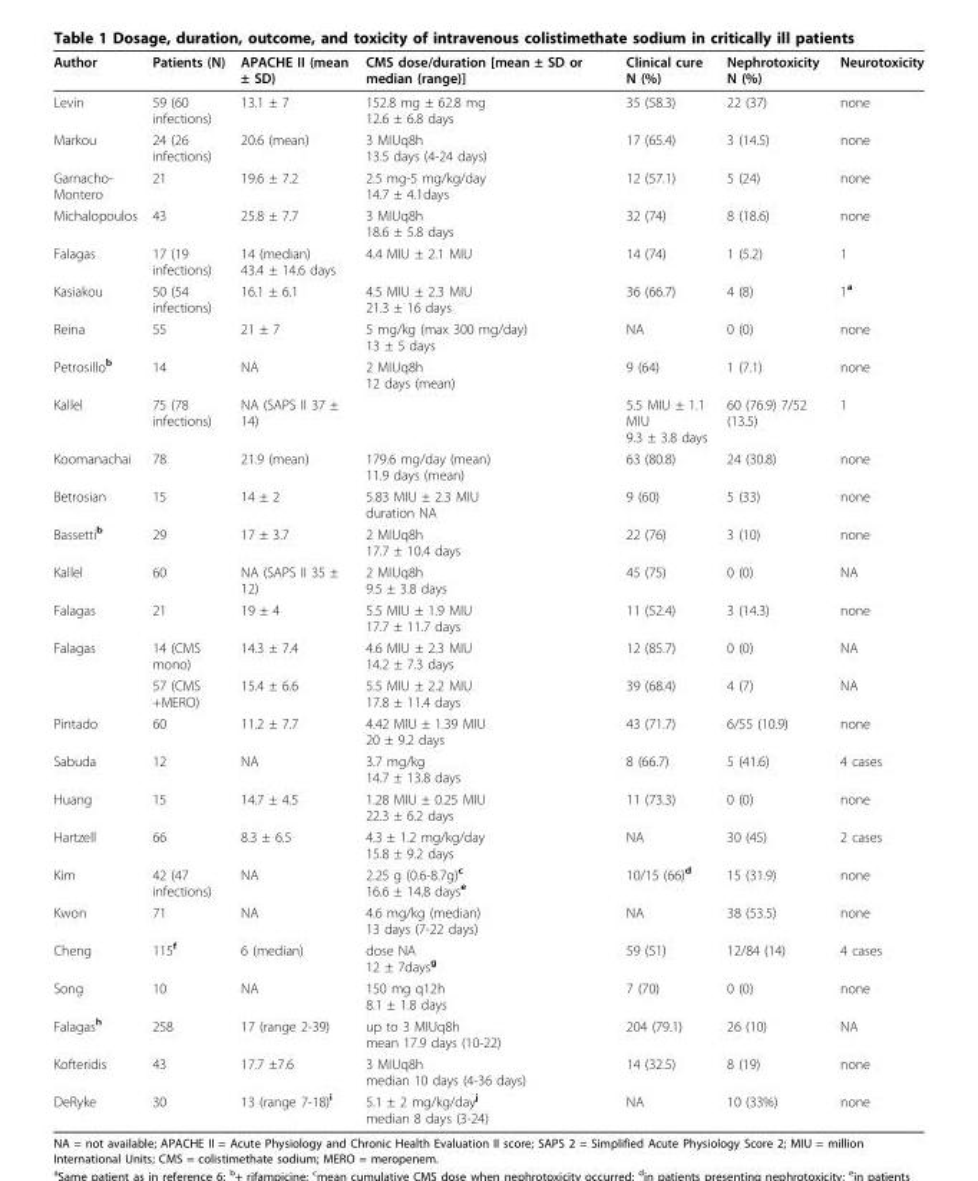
<table><thead><tr><td>Author</td><td>Patients (N)</td><td>APACHE II (mean ± SD)</td><td>CMS dose/duration [mean ± SD or median (range)]</td><td>Clinical cure N (%)</td><td>Nephrotoxicity N (%)</td><td>Neurotoxicity</td></tr></thead><tbody><tr><td>Levin</td><td>59 (60 infections)</td><td>13.1 ± 7</td><td>152.8 mg ± 62.8 mg 12.6 ± 6.8 days</td><td>35 (58.3)</td><td>22 (37)</td><td>none</td></tr><tr><td>Markou</td><td>24 (26 infections)</td><td>20.6 (mean)</td><td>3 MIUq8h 13.5 days (4-24 days)</td><td>17 (65.4)</td><td>3 (14.5)</td><td>none</td></tr><tr><td>Garnacho- Montero</td><td>21</td><td>19.6 ± 7.2</td><td>2.5 mg-5 mg/kg/day 14.7 ± 4.1days</td><td>12 (57.1)</td><td>5 (24)</td><td>none</td></tr><tr><td>Michalopoulos</td><td>43</td><td>25.8 ± 7.7</td><td>3 MIUq8h 18.6 ± 5.8 days</td><td>32 (74)</td><td>8 (18.6)</td><td>none</td></tr><tr><td>Falagas</td><td>17 (19 infections)</td><td>14 (median) 43.4 ± 14.6 days</td><td>4.4 MIU ± 2.1 MIU</td><td>14 (74)</td><td>1 (5.2)</td><td>1</td></tr><tr><td>Kasiakou</td><td>50 (54 infections)</td><td>16.1 ± 6.1</td><td>4.5 MIU ± 2.3 MIU 21.3 ± 16 days</td><td>36 (66.7)</td><td>4 (8)</td><td>1<sup>a</sup></td></tr><tr><td>Reina</td><td>55</td><td>21 ± 7</td><td>5 mg/kg (max 300 mg/day) 13 ± 5 days</td><td>NA</td><td>0 (0)</td><td>none</td></tr><tr><td>Petrosillo<sup>b</sup></td><td>14</td><td>NA</td><td>2 MIUq8h 12 days (mean)</td><td>9 (64)</td><td>1 (7.1)</td><td>none</td></tr><tr><td>Kallel</td><td>75 (78 infections)</td><td>NA (SAPS II 37 ± 14)</td><td></td><td>5.5 MIU ± 1.1 MIU 9.3 ± 3.8 days</td><td>60 (76.9) 7/52 (13.5)</td><td>1</td></tr><tr><td>Koomanachai</td><td>78</td><td>21.9 (mean)</td><td>179.6 mg/day (mean) 11.9 days (mean)</td><td>63 (80.8)</td><td>24 (30.8)</td><td>none</td></tr><tr><td>Betrosian</td><td>15</td><td>14 ± 2</td><td>5.83 MIU ± 2.3 MIU duration NA</td><td>9 (60)</td><td>5 (33)</td><td>none</td></tr><tr><td>Bassetti<sup>b</sup></td><td>29</td><td>17 ± 3.7</td><td>2 MIUq8h 17.7 ± 10.4 days</td><td>22 (76)</td><td>3 (10)</td><td>none</td></tr><tr><td>Kallel</td><td>60</td><td>NA (SAPS II 35 ± 12)</td><td>2 MIUq8h 9.5 ± 3.8 days</td><td>45 (75)</td><td>0 (0)</td><td>NA</td></tr><tr><td>Falagas</td><td>21</td><td>19 ± 4</td><td>5.5 MIU ± 1.9 MIU 17.7 ± 11.7 days</td><td>11 (52.4)</td><td>3 (14.3)</td><td>none</td></tr><tr><td rowspan="2">Falagas</td><td>14 (CMS mono)</td><td>14.3 ± 7.4</td><td>4.6 MIU ± 2.3 MIU 14.2 ± 7.3 days</td><td>12 (85.7)</td><td>0 (0)</td><td>NA</td></tr><tr><td>57 (CMS +MERO)</td><td>15.4 ± 6.6</td><td>5.5 MIU ± 2.2 MIU 17.8 ± 11.4 days</td><td>39 (68.4)</td><td>4 (7)</td><td>NA</td></tr><tr><td>Pintado</td><td>60</td><td>11.2 ± 7.7</td><td>4.42 MIU ± 1.39 MIU 20 ± 9.2 days</td><td>43 (71.7)</td><td>6/55 (10.9)</td><td>none</td></tr><tr><td>Sabuda</td><td>12</td><td>NA</td><td>3.7 mg/kg 14.7 ± 13.8 days</td><td>8 (66.7)</td><td>5 (41.6)</td><td>4 cases</td></tr><tr><td>Huang</td><td>15</td><td>14.7 ± 4.5</td><td>1.28 MIU ± 0.25 MIU 22.3 ± 6.2 days</td><td>11 (73.3)</td><td>0 (0)</td><td>none</td></tr><tr><td>Hartzell</td><td>66</td><td>8.3 ± 6.5</td><td>4.3 ± 1.2 mg/kg/day 15.8 ± 9.2 days</td><td>NA</td><td>30 (45)</td><td>2 cases</td></tr><tr><td>Kim</td><td>42 (47 infections)</td><td>NA</td><td>2.25 g (0.6-8.7g)<sup>c</sup> 16.6 ± 14.8 days<sup>e</sup></td><td>10/15 (66)<sup>d</sup></td><td>15 (31.9)</td><td>none</td></tr><tr><td>Kwon</td><td>71</td><td>NA</td><td>4.6 mg/kg (median) 13 days (7-22 days)</td><td>NA</td><td>38 (53.5)</td><td>none</td></tr><tr><td>Cheng</td><td>115<sup>f</sup></td><td>6 (median)</td><td>dose NA 12 ± 7days<sup>g</sup></td><td>59 (51)</td><td>12/84 (14)</td><td>4 cases</td></tr><tr><td>Song</td><td>10</td><td>NA</td><td>150 mg q12h 8.1 ± 1.8 days</td><td>7 (70)</td><td>0 (0)</td><td>none</td></tr><tr><td>Falagas<sup>h</sup></td><td>258</td><td>17 (range 2-39)</td><td>up to 3 MIUq8h mean 17.9 days (10-22)</td><td>204 (79.1)</td><td>26 (10)</td><td>NA</td></tr><tr><td>Kofteridis</td><td>43</td><td>17.7 ±7.6</td><td>3 MIUq8h median 10 days (4-36 days)</td><td>14 (32.5)</td><td>8 (19)</td><td>none</td></tr><tr><td>DeRyke</td><td>30</td><td>13 (range 7-18)<sup>i</sup></td><td>5.1 ± 2 mg/kg/day<sup>j</sup> median 8 days (3-24)</td><td>NA</td><td>10 (33%)</td><td>none</td></tr></tbody></table>